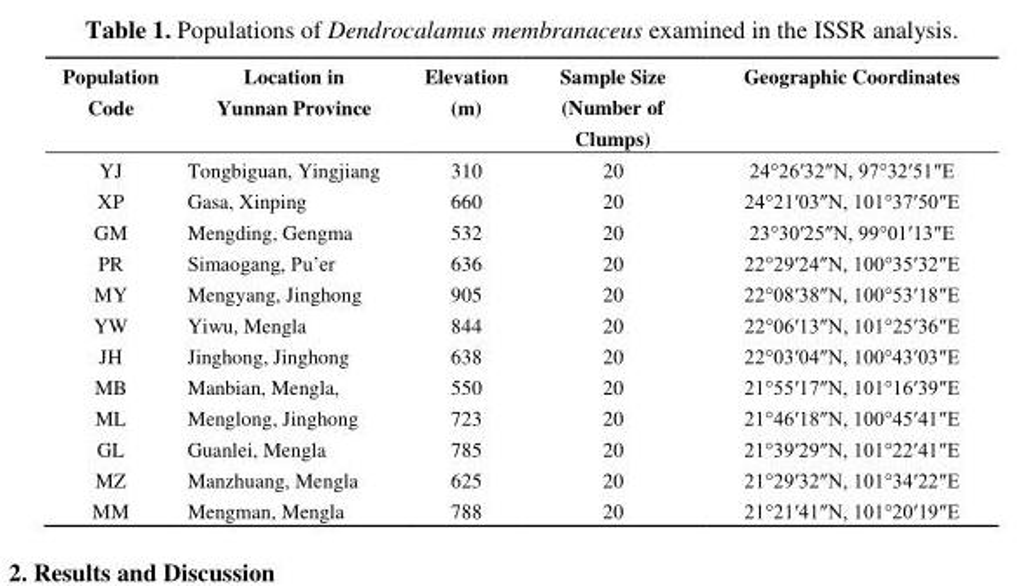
<table><thead><tr><td>Population Code</td><td>Location in Yunnan Province</td><td>Elevation (m)</td><td>Sample Size (Number of Clumps)</td><td>Geographic Coordinates</td></tr></thead><tbody><tr><td>YJ</td><td>Tongbiguan, Yingjiang</td><td>310</td><td>20</td><td>24°26′32″N, 97°32′51″E</td></tr><tr><td>XP</td><td>Gasa, Xinping</td><td>660</td><td>20</td><td>24°21′03″N, 101°37′50″E</td></tr><tr><td>GM</td><td>Mengding, Gengma</td><td>532</td><td>20</td><td>23°30′25″N, 99°01′13″E</td></tr><tr><td>PR</td><td>Simaogang, Pu’er</td><td>636</td><td>20</td><td>22°29′24″N, 100°35′32″E</td></tr><tr><td>MY</td><td>Mengyang, Jinghong</td><td>905</td><td>20</td><td>22°08′38″N, 100°53′18″E</td></tr><tr><td>YW</td><td>Yiwu, Mengla</td><td>844</td><td>20</td><td>22°06′13″N, 101°25′36″E</td></tr><tr><td>JH</td><td>Jinghong, Jinghong</td><td>638</td><td>20</td><td>22°03′04″N, 100°43′03″E</td></tr><tr><td>MB</td><td>Manbian, Mengla,</td><td>550</td><td>20</td><td>21°55′17″N, 101°16′39″E</td></tr><tr><td>ML</td><td>Menglong, Jinghong</td><td>723</td><td>20</td><td>21°46′18″N, 100°45′41″E</td></tr><tr><td>GL</td><td>Guanlei, Mengla</td><td>785</td><td>20</td><td>21°39′29″N, 101°22′41″E</td></tr><tr><td>MZ</td><td>Manzhuang, Mengla</td><td>625</td><td>20</td><td>21°29′32″N, 101°34′22″E</td></tr><tr><td>MM</td><td>Mengman, Mengla</td><td>788</td><td>20</td><td>21°21′41″N, 101°20′19″E</td></tr></tbody></table>